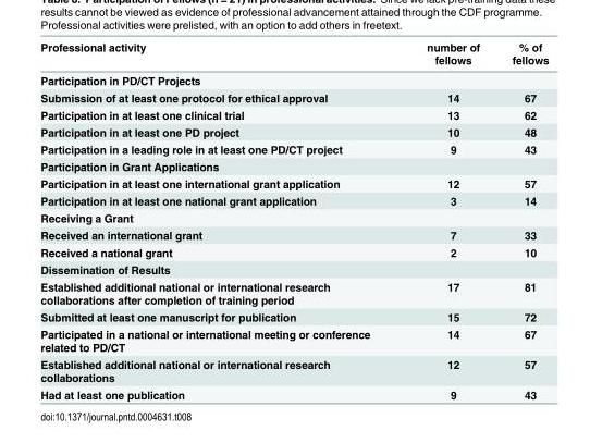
<table><thead><tr><td>Professional activity</td><td>number of fellows</td><td>% of fellows</td></tr></thead><tbody><tr><td colspan="3">Participation in PD/CT Projects</td></tr><tr><td>Submission of at least one protocol for ethical approval</td><td>14</td><td>67</td></tr><tr><td>Participation in at least one clinical trial</td><td>13</td><td>62</td></tr><tr><td>Participation in at least one PD project</td><td>10</td><td>48</td></tr><tr><td>Participation in a leading role in at least one PD/CT project</td><td>9</td><td>43</td></tr><tr><td colspan="3">Participation in Grant Applications</td></tr><tr><td>Participation in at least one international grant application</td><td>12</td><td>57</td></tr><tr><td>Participation in at least one national grant application</td><td>3</td><td>14</td></tr><tr><td colspan="3">Receiving a Grant</td></tr><tr><td>Received an international grant</td><td>7</td><td>33</td></tr><tr><td>Received a national grant</td><td>2</td><td>10</td></tr><tr><td colspan="3">Dissemination of Results</td></tr><tr><td>Established additional national or international research collaborations after completion of training period</td><td>17</td><td>81</td></tr><tr><td>Submitted at least one manuscript for publication</td><td>15</td><td>72</td></tr><tr><td>Participated in a national or international meeting or conference related to PD/CT</td><td>14</td><td>67</td></tr><tr><td>Established additional national or international research collaborations</td><td>12</td><td>57</td></tr><tr><td>Had at least one publication</td><td>9</td><td>43</td></tr></tbody></table>